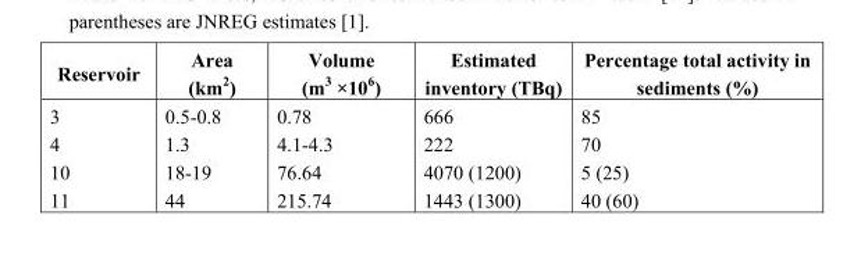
<table><thead><tr><td>Reservoir</td><td>Area (km<sup>2</sup>)</td><td>Volume (m<sup>3</sup> ×10<sup>6</sup>)</td><td>Estimated inventory (TBq)</td><td>Percentage total activity in sediments (%)</td></tr></thead><tbody><tr><td>3</td><td>0.5-0.8</td><td>0.78</td><td>666</td><td>85</td></tr><tr><td>4</td><td>1.3</td><td>4.1-4.3</td><td>222</td><td>70</td></tr><tr><td>10</td><td>18-19</td><td>76.64</td><td>4070 (1200)</td><td>5 (25)</td></tr><tr><td>11</td><td>44</td><td>215.74</td><td>1443 (1300)</td><td>40 (60)</td></tr></tbody></table>